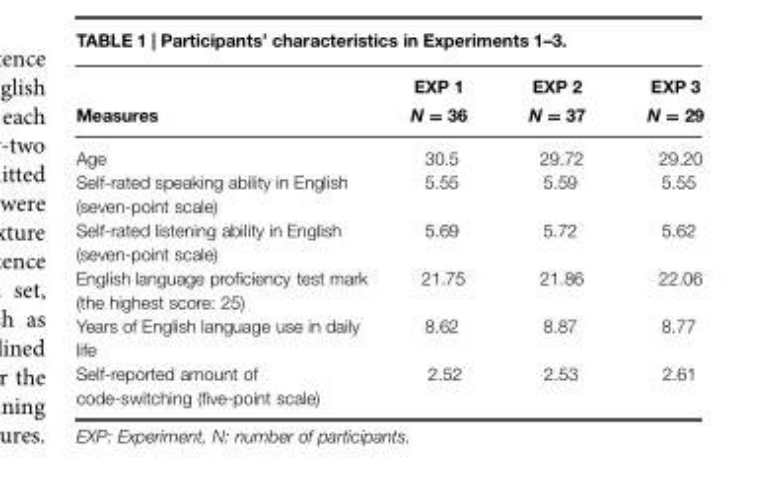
<table><thead><tr><td rowspan="2">Measures</td><td rowspan="2">EXP 1 N = 36</td><td rowspan="2">EXP 2 N = 37</td><td rowspan="2">EXP 3 N = 29</td></tr><tr></tr></thead><tbody><tr><td>Age Self-rated speaking ability in English (seven-point scale) Self-rated listening ability in English (seven-point scale) English language proficiency test mark (the highest score: 25) Years of English language use in daily life Self-reported amount of code-switching (five-point scale)</td><td>30.5 5.55 5.69 21.75 8.62 2.52</td><td>29.72 5.59 5.72 21.86 8.87 2.53</td><td>29.20 5.55 5.62 22.06 8.77 2.61</td></tr></tbody></table>